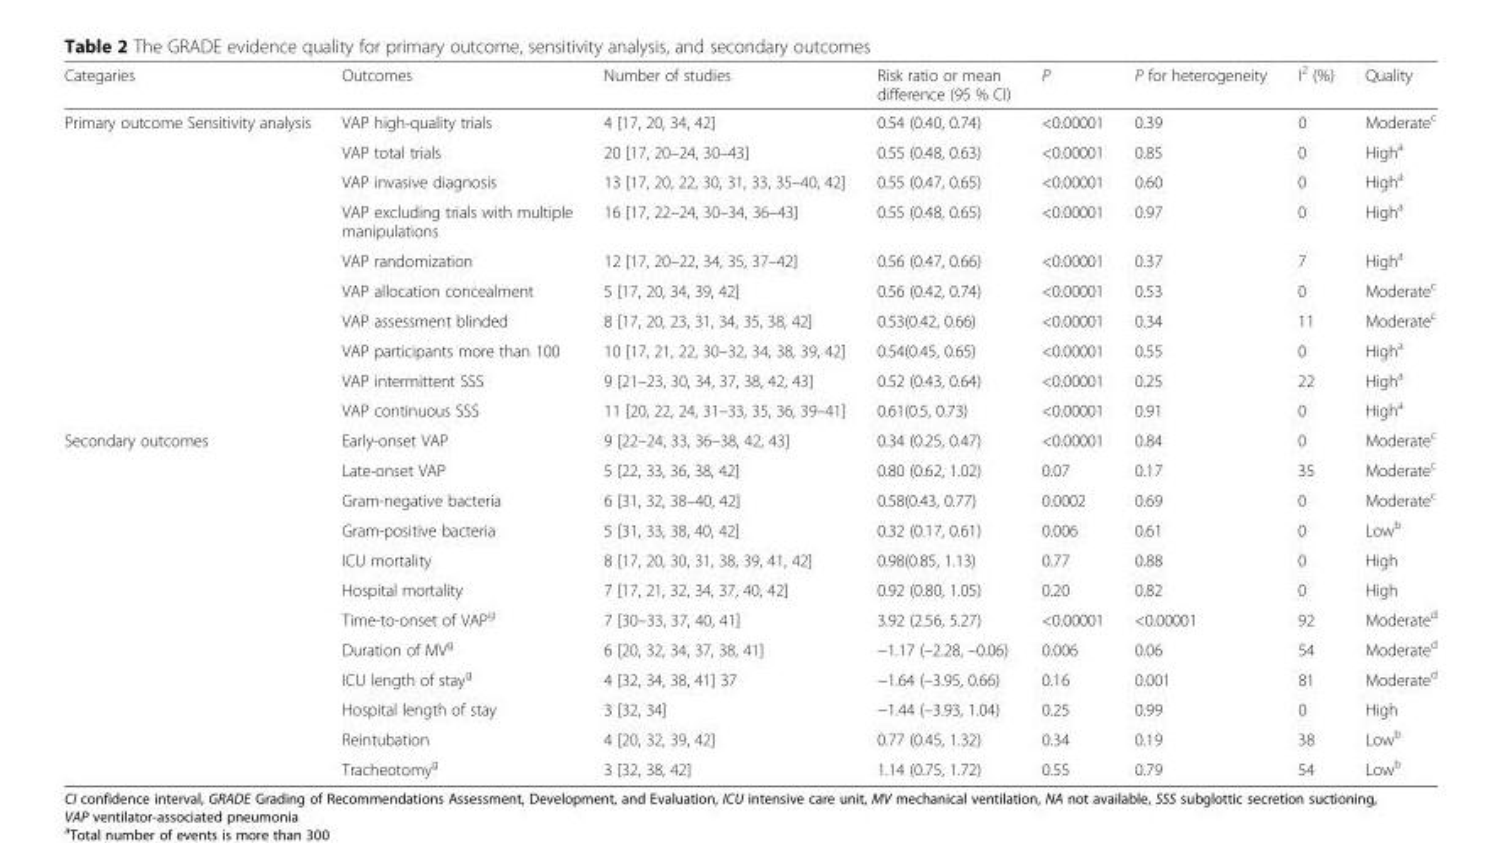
<table><thead><tr><td>Categaries</td><td>Outcomes</td><td>Number of studies</td><td>Risk ratio or mean difference (95 % CI)</td><td>P</td><td>P for heterogeneity</td><td>I<sup>2</sup> (%)</td><td>Quality</td></tr></thead><tbody><tr><td rowspan="10">Primary outcome Sensitivity analysis</td><td>VAP high-quality trials</td><td>4 [17, 20, 34, 42]</td><td>0.54 (0.40, 0.74)</td><td>&lt;0.00001</td><td>0.39</td><td>0</td><td>Moderate<sup>c</sup></td></tr><tr><td>VAP total trials</td><td>20 [17, 20–24, 30–43]</td><td>0.55 (0.48, 0.63)</td><td>&lt;0.00001</td><td>0.85</td><td>0</td><td>High<sup>a</sup></td></tr><tr><td>VAP invasive diagnosis</td><td>13 [17, 20, 22, 30, 31, 33, 35–40, 42]</td><td>0.55 (0.47, 0.65)</td><td>&lt;0.00001</td><td>0.60</td><td>0</td><td>High<sup>a</sup></td></tr><tr><td>VAP excluding trials with multiple manipulations</td><td>16 [17, 22–24, 30–34, 36–43]</td><td>0.55 (0.48, 0.65)</td><td>&lt;0.00001</td><td>0.97</td><td>0</td><td>High<sup>a</sup></td></tr><tr><td>VAP randomization</td><td>12 [17, 20–22, 34, 35, 37–42]</td><td>0.56 (0.47, 0.66)</td><td>&lt;0.00001</td><td>0.37</td><td>7</td><td>High<sup>a</sup></td></tr><tr><td>VAP allocation concealment</td><td>5 [17, 20, 34, 39, 42]</td><td>0.56 (0.42, 0.74)</td><td>&lt;0.00001</td><td>0.53</td><td>0</td><td>Moderate<sup>c</sup></td></tr><tr><td>VAP assessment blinded</td><td>8 [17, 20, 23, 31, 34, 35, 38, 42]</td><td>0.53(0.42, 0.66)</td><td>&lt;0.00001</td><td>0.34</td><td>11</td><td>Moderate<sup>c</sup></td></tr><tr><td>VAP participants more than 100</td><td>10 [17, 21, 22, 30–32, 34, 38, 39, 42]</td><td>0.54(0.45, 0.65)</td><td>&lt;0.00001</td><td>0.55</td><td>0</td><td>High<sup>a</sup></td></tr><tr><td>VAP intermittent SSS</td><td>9 [21–23, 30, 34, 37, 38, 42, 43]</td><td>0.52 (0.43, 0.64)</td><td>&lt;0.00001</td><td>0.25</td><td>22</td><td>High<sup>a</sup></td></tr><tr><td>VAP continuous SSS</td><td>11 [20, 22, 24, 31–33, 35, 36, 39–41]</td><td>0.61(0.5, 0.73)</td><td>&lt;0.00001</td><td>0.91</td><td>0</td><td>High<sup>a</sup></td></tr><tr><td rowspan="12">Secondary outcomes</td><td>Early-onset VAP</td><td>9 [22–24, 33, 36–38, 42, 43]</td><td>0.34 (0.25, 0.47)</td><td>&lt;0.00001</td><td>0.84</td><td>0</td><td>Moderate<sup>c</sup></td></tr><tr><td>Late-onset VAP</td><td>5 [22, 33, 36, 38, 42]</td><td>0.80 (0.62, 1.02)</td><td>0.07</td><td>0.17</td><td>35</td><td>Moderate<sup>c</sup></td></tr><tr><td>Gram-negative bacteria</td><td>6 [31, 32, 38–40, 42]</td><td>0.58(0.43, 0.77)</td><td>0.0002</td><td>0.69</td><td>0</td><td>Moderate<sup>c</sup></td></tr><tr><td>Gram-positive bacteria</td><td>5 [31, 33, 38, 40, 42]</td><td>0.32 (0.17, 0.61)</td><td>0.006</td><td>0.61</td><td>0</td><td>Low<sup>b</sup></td></tr><tr><td>ICU mortality</td><td>8 [17, 20, 30, 31, 38, 39, 41, 42]</td><td>0.98(0.85, 1.13)</td><td>0.77</td><td>0.88</td><td>0</td><td>High</td></tr><tr><td>Hospital mortality</td><td>7 [17, 21, 32, 34, 37, 40, 42]</td><td>0.92 (0.80, 1.05)</td><td>0.20</td><td>0.82</td><td>0</td><td>High</td></tr><tr><td>Time-to-onset of VAP<sup>g</sup></td><td>7 [30–33, 37, 40, 41]</td><td>3.92 (2.56, 5.27)</td><td>&lt;0.00001</td><td>&lt;0.00001</td><td>92</td><td>Moderate<sup>d</sup></td></tr><tr><td>Duration of MV<sup>g</sup></td><td>6 [20, 32, 34, 37, 38, 41]</td><td>−1.17 (–2.28, –0.06)</td><td>0.006</td><td>0.06</td><td>54</td><td>Moderate<sup>d</sup></td></tr><tr><td>ICU length of stay<sup>g</sup></td><td>4 [32, 34, 38, 41] 37</td><td>−1.64 (–3.95, 0.66)</td><td>0.16</td><td>0.001</td><td>81</td><td>Moderate<sup>d</sup></td></tr><tr><td>Hospital length of stay</td><td>3 [32, 34]</td><td>−1.44 (–3.93, 1.04)</td><td>0.25</td><td>0.99</td><td>0</td><td>High</td></tr><tr><td>Reintubation</td><td>4 [20, 32, 39, 42]</td><td>0.77 (0.45, 1.32)</td><td>0.34</td><td>0.19</td><td>38</td><td>Low<sup>b</sup></td></tr><tr><td>Tracheotomy<sup>g</sup></td><td>3 [32, 38, 42]</td><td>1.14 (0.75, 1.72)</td><td>0.55</td><td>0.79</td><td>54</td><td>Low<sup>b</sup></td></tr></tbody></table>